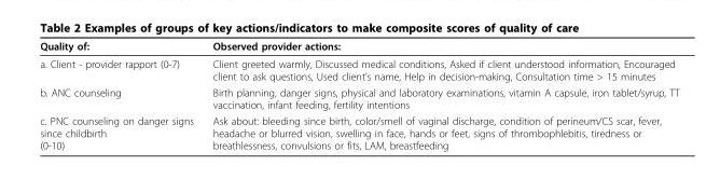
<table><thead><tr><td>Quality of:</td><td>Observed provider actions:</td></tr></thead><tbody><tr><td>a. Client - provider rapport (0-7)</td><td>Client greeted warmly, Discussed medical conditions, Asked if client understood information, Encouraged client to ask questions, Used client’s name, Help in decision-making, Consultation time &gt; 15 minutes</td></tr><tr><td>b. ANC counseling</td><td>Birth planning, danger signs, physical and laboratory examinations, vitamin A capsule, iron tablet/syrup, TT vaccination, infant feeding, fertility intentions</td></tr><tr><td>c. PNC counseling on danger signs since childbirth (0-10)</td><td>Ask about: bleeding since birth, color/smell of vaginal discharge, condition of perineum/CS scar, fever, headache or blurred vision, swelling in face, hands or feet, signs of thrombophlebitis, tiredness or breathlessness, convulsions or fits, LAM, breastfeeding</td></tr></tbody></table>